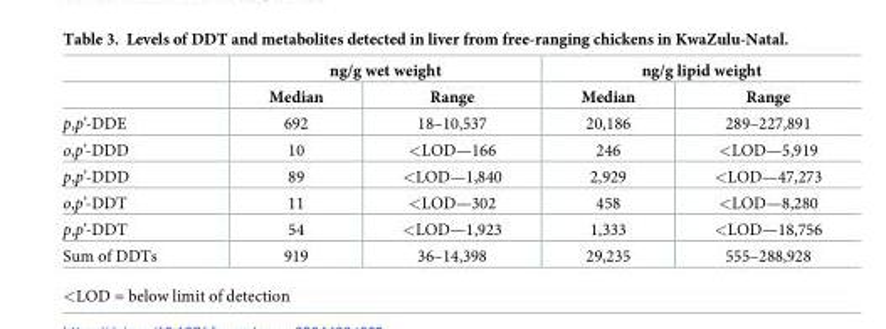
<table><thead><tr><td rowspan="2"></td><td colspan="2">ng/g wet weight</td><td colspan="2">ng/g lipid weight</td></tr><tr><td>Median</td><td>Range</td><td>Median</td><td>Range</td></tr></thead><tbody><tr><td>p,p’-DDE</td><td>692</td><td>18–10,537</td><td>20,186</td><td>289–227,891</td></tr><tr><td>o,p’-DDD</td><td>10</td><td>&lt;LOD—166</td><td>246</td><td>&lt;LOD—5,919</td></tr><tr><td>p,p’-DDD</td><td>89</td><td>&lt;LOD—1,840</td><td>2,929</td><td>&lt;LOD—47,273</td></tr><tr><td>o,p’-DDT</td><td>11</td><td>&lt;LOD—302</td><td>458</td><td>&lt;LOD—8,280</td></tr><tr><td>p,p’-DDT</td><td>54</td><td>&lt;LOD—1,923</td><td>1,333</td><td>&lt;LOD—18,756</td></tr><tr><td>Sum of DDTs</td><td>919</td><td>36–14,398</td><td>29,235</td><td>555–288,928</td></tr></tbody></table>